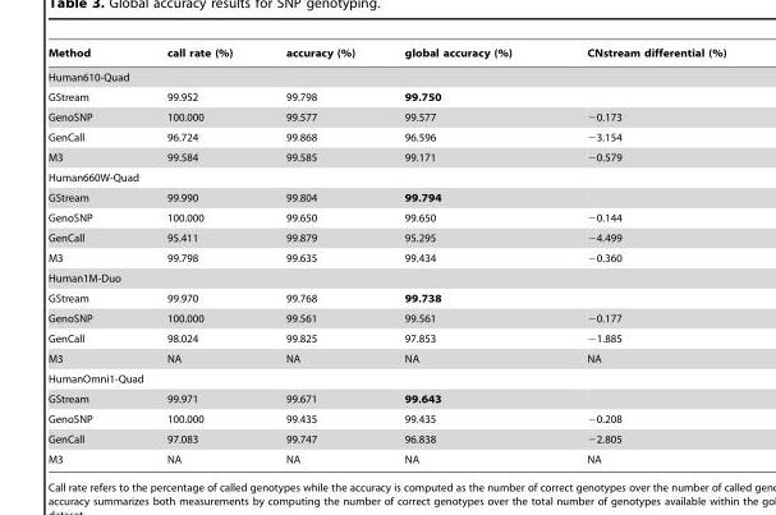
<table><thead><tr><td>Method</td><td>call rate (%)</td><td>accuracy (%)</td><td>global accuracy (%)</td><td>CNstream differential (%)</td></tr></thead><tbody><tr><td colspan="5">Human610-Quad</td></tr><tr><td>GStream</td><td>99.952</td><td>99.798</td><td>99.750</td><td></td></tr><tr><td>GenoSNP</td><td>100.000</td><td>99.577</td><td>99.577</td><td>−0.173</td></tr><tr><td>GenCall</td><td>96.724</td><td>99.868</td><td>96.596</td><td>−3.154</td></tr><tr><td>M3</td><td>99.584</td><td>99.585</td><td>99.171</td><td>−0.579</td></tr><tr><td colspan="5">Human660W-Quad</td></tr><tr><td>GStream</td><td>99.990</td><td>99.804</td><td>99.794</td><td></td></tr><tr><td>GenoSNP</td><td>100.000</td><td>99.650</td><td>99.650</td><td>−0.144</td></tr><tr><td>GenCall</td><td>95.411</td><td>99.879</td><td>95.295</td><td>−4.499</td></tr><tr><td>M3</td><td>99.798</td><td>99.635</td><td>99.434</td><td>−0.360</td></tr><tr><td colspan="5">Human1M-Duo</td></tr><tr><td>GStream</td><td>99.970</td><td>99.768</td><td>99.738</td><td></td></tr><tr><td>GenoSNP</td><td>100.000</td><td>99.561</td><td>99.561</td><td>−0.177</td></tr><tr><td>GenCall</td><td>98.024</td><td>99.825</td><td>97.853</td><td>−1.885</td></tr><tr><td>M3</td><td>NA</td><td>NA</td><td>NA</td><td>NA</td></tr><tr><td colspan="5">HumanOmni1-Quad</td></tr><tr><td>GStream</td><td>99.971</td><td>99.671</td><td>99.643</td><td></td></tr><tr><td>GenoSNP</td><td>100.000</td><td>99.435</td><td>99.435</td><td>−0.208</td></tr><tr><td>GenCall</td><td>97.083</td><td>99.747</td><td>96.838</td><td>−2.805</td></tr><tr><td>M3</td><td>NA</td><td>NA</td><td>NA</td><td>NA</td></tr></tbody></table>